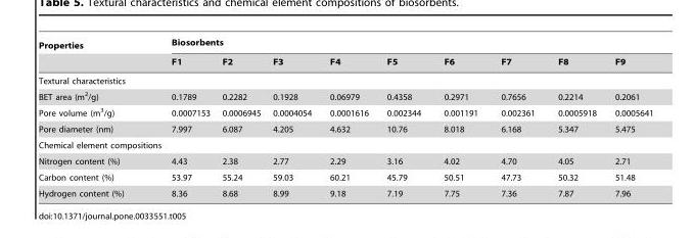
<table><thead><tr><td rowspan="2">Properties</td><td colspan="9">Biosorbents</td></tr><tr><td>F1</td><td>F2</td><td>F3</td><td>F4</td><td>F5</td><td>F6</td><td>F7</td><td>F8</td><td>F9</td></tr></thead><tbody><tr><td colspan="10">Textural characteristics</td></tr><tr><td>BET area (m<sup>2</sup>/g)</td><td>0.1789</td><td>0.2282</td><td>0.1928</td><td>0.06979</td><td>0.4358</td><td>0.2971</td><td>0.7656</td><td>0.2214</td><td>0.2061</td></tr><tr><td>Pore volume (m<sup>3</sup>/g)</td><td>0.0007153</td><td>0.0006945</td><td>0.0004054</td><td>0.0001616</td><td>0.002344</td><td>0.001191</td><td>0.002361</td><td>0.0005918</td><td>0.0005641</td></tr><tr><td>Pore diameter (nm)</td><td>7.997</td><td>6.087</td><td>4.205</td><td>4.632</td><td>10.76</td><td>8.018</td><td>6.168</td><td>5.347</td><td>5.475</td></tr><tr><td colspan="10">Chemical element compositions</td></tr><tr><td>Nitrogen content (%)</td><td>4.43</td><td>2.38</td><td>2.77</td><td>2.29</td><td>3.16</td><td>4.02</td><td>4.70</td><td>4.05</td><td>2.71</td></tr><tr><td>Carbon content (%)</td><td>53.97</td><td>55.24</td><td>59.03</td><td>60.21</td><td>45.79</td><td>50.51</td><td>47.73</td><td>50.32</td><td>51.48</td></tr><tr><td>Hydrogen content (%)</td><td>8.36</td><td>8.68</td><td>8.99</td><td>9.18</td><td>7.19</td><td>7.75</td><td>7.36</td><td>7.87</td><td>7.96</td></tr></tbody></table>